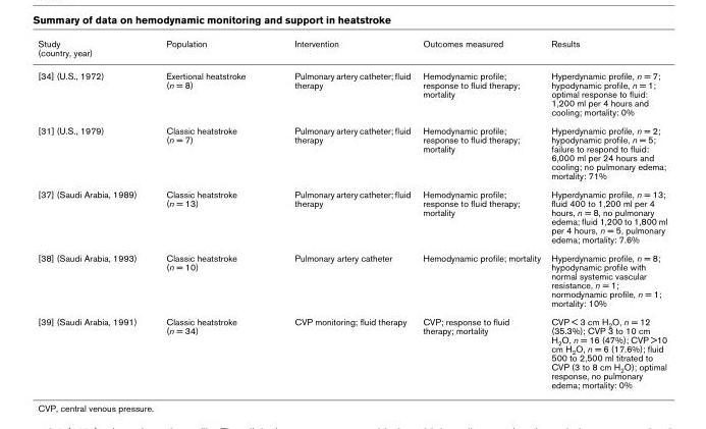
<table><thead><tr><td>Study (country, year)</td><td>Population</td><td>Intervention</td><td>Outcomes measured</td><td>Results</td></tr></thead><tbody><tr><td>[34] (U.S., 1972)</td><td>Exertional heatstroke (n = 8)</td><td>Pulmonary artery catheter; fluid therapy</td><td>Hemodynamic profile; response to fluid therapy; mortality</td><td>Hyperdynamic profile, n = 7; hypodynamic profile, n = 1; optimal response to fluid: 1,200 ml per 4 hours and cooling; mortality: 0%</td></tr><tr><td>[31] (U.S., 1979)</td><td>Classic heatstroke (n = 7)</td><td>Pulmonary artery catheter; fluid therapy</td><td>Hemodynamic profile; response to fluid therapy; mortality</td><td>Hyperdynamic profile, n = 2; hypodynamic profile, n = 5; failure to respond to fluid: 6,000 ml per 24 hours and cooling; no pulmonary edema; mortality: 71%</td></tr><tr><td>[37] (Saudi Arabia, 1989)</td><td>Classic heatstroke (n = 13)</td><td>Pulmonary artery catheter; fluid therapy</td><td>Hemodynamic profile; response to fluid therapy; mortality</td><td>Hyperdynamic profile, n = 13; fluid 400 to 1,200 ml per 4 hours, n = 8, no pulmonary edema; fluid 1,200 to 1,800 ml per 4 hours, n = 5, pulmonary edema; mortality: 7.6%</td></tr><tr><td>[38] (Saudi Arabia, 1993)</td><td>Classic heatstroke (n = 10)</td><td>Pulmonary artery catheter</td><td>Hemodynamic profile; mortality</td><td>Hyperdynamic profile, n = 8; hypodynamic profile with normal systemic vascular resistance, n = 1; normodynamic profile, n = 1; mortality: 10%</td></tr><tr><td>[39] (Saudi Arabia, 1991)</td><td>Classic heatstroke (n = 34)</td><td>CVP monitoring; fluid therapy</td><td>CVP; response to fluid therapy; mortality</td><td>CVP &lt; 3 cm H<sub>2</sub>O, n = 12 (35.3%); CVP 3 to 10 cm H<sub>2</sub>O, n = 16 (47%); CVP &gt;10 cm H<sub>2</sub>O, n = 6 (17.6%); fluid 500 to 2,500 ml titrated to CVP (3 to 8 cm H<sub>2</sub>O); optimal response, no pulmonary edema; mortality: 0%</td></tr></tbody></table>